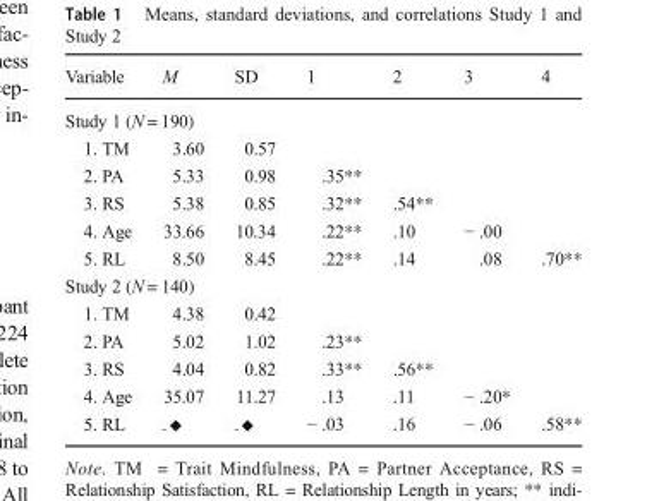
<table><thead><tr><td>Variable</td><td>M</td><td>SD</td><td>1</td><td>2</td><td>3</td><td>4</td></tr></thead><tbody><tr><td colspan="7">Study 1 (N = 190)</td></tr><tr><td>1. TM</td><td>3.60</td><td>0.57</td><td></td><td></td><td></td><td></td></tr><tr><td>2. PA</td><td>5.33</td><td>0.98</td><td>.35**</td><td></td><td></td><td></td></tr><tr><td>3. RS</td><td>5.38</td><td>0.85</td><td>.32**</td><td>.54**</td><td></td><td></td></tr><tr><td>4. Age</td><td>33.66</td><td>10.34</td><td>.22**</td><td>.10</td><td>− .00</td><td></td></tr><tr><td>5. RL</td><td>8.50</td><td>8.45</td><td>.22**</td><td>.14</td><td>.08</td><td>.70**</td></tr><tr><td colspan="7">Study 2 (N = 140)</td></tr><tr><td>1. TM</td><td>4.38</td><td>0.42</td><td></td><td></td><td></td><td></td></tr><tr><td>2. PA</td><td>5.02</td><td>1.02</td><td>.23**</td><td></td><td></td><td></td></tr><tr><td>3. RS</td><td>4.04</td><td>0.82</td><td>.33**</td><td>.56**</td><td></td><td></td></tr><tr><td>4. Age</td><td>35.07</td><td>11.27</td><td>.13</td><td>.11</td><td>− .20*</td><td></td></tr><tr><td>5. RL</td><td></td><td></td><td>− .03</td><td>.16</td><td>− .06</td><td>.58**</td></tr></tbody></table>